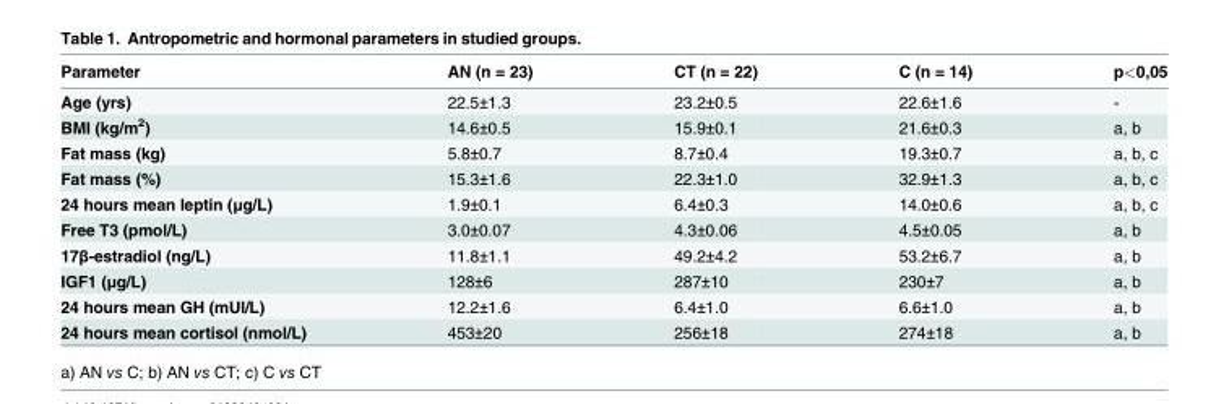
<table><thead><tr><td>Parameter</td><td>AN (n = 23)</td><td>CT (n = 22)</td><td>C (n = 14)</td><td>p&lt;0,05</td></tr></thead><tbody><tr><td>Age (yrs)</td><td>22.5±1.3</td><td>23.2±0.5</td><td>22.6±1.6</td><td>-</td></tr><tr><td>BMI (kg/m<sup>2</sup>)</td><td>14.6±0.5</td><td>15.9±0.1</td><td>21.6±0.3</td><td>a, b</td></tr><tr><td>Fat mass (kg)</td><td>5.8±0.7</td><td>8.7±0.4</td><td>19.3±0.7</td><td>a, b, c</td></tr><tr><td>Fat mass (%)</td><td>15.3±1.6</td><td>22.3±1.0</td><td>32.9±1.3</td><td>a, b, c</td></tr><tr><td>24 hours mean leptin (μg/L)</td><td>1.9±0.1</td><td>6.4±0.3</td><td>14.0±0.6</td><td>a, b, c</td></tr><tr><td>Free T3 (pmol/L)</td><td>3.0±0.07</td><td>4.3±0.06</td><td>4.5±0.05</td><td>a, b</td></tr><tr><td>17β-estradiol (ng/L)</td><td>11.8±1.1</td><td>49.2±4.2</td><td>53.2±6.7</td><td>a, b</td></tr><tr><td>IGF1 (μg/L)</td><td>128±6</td><td>287±10</td><td>230±7</td><td>a, b</td></tr><tr><td>24 hours mean GH (mUI/L)</td><td>12.2±1.6</td><td>6.4±1.0</td><td>6.6±1.0</td><td>a, b</td></tr><tr><td>24 hours mean cortisol (nmol/L)</td><td>453±20</td><td>256±18</td><td>274±18</td><td>a, b</td></tr></tbody></table>